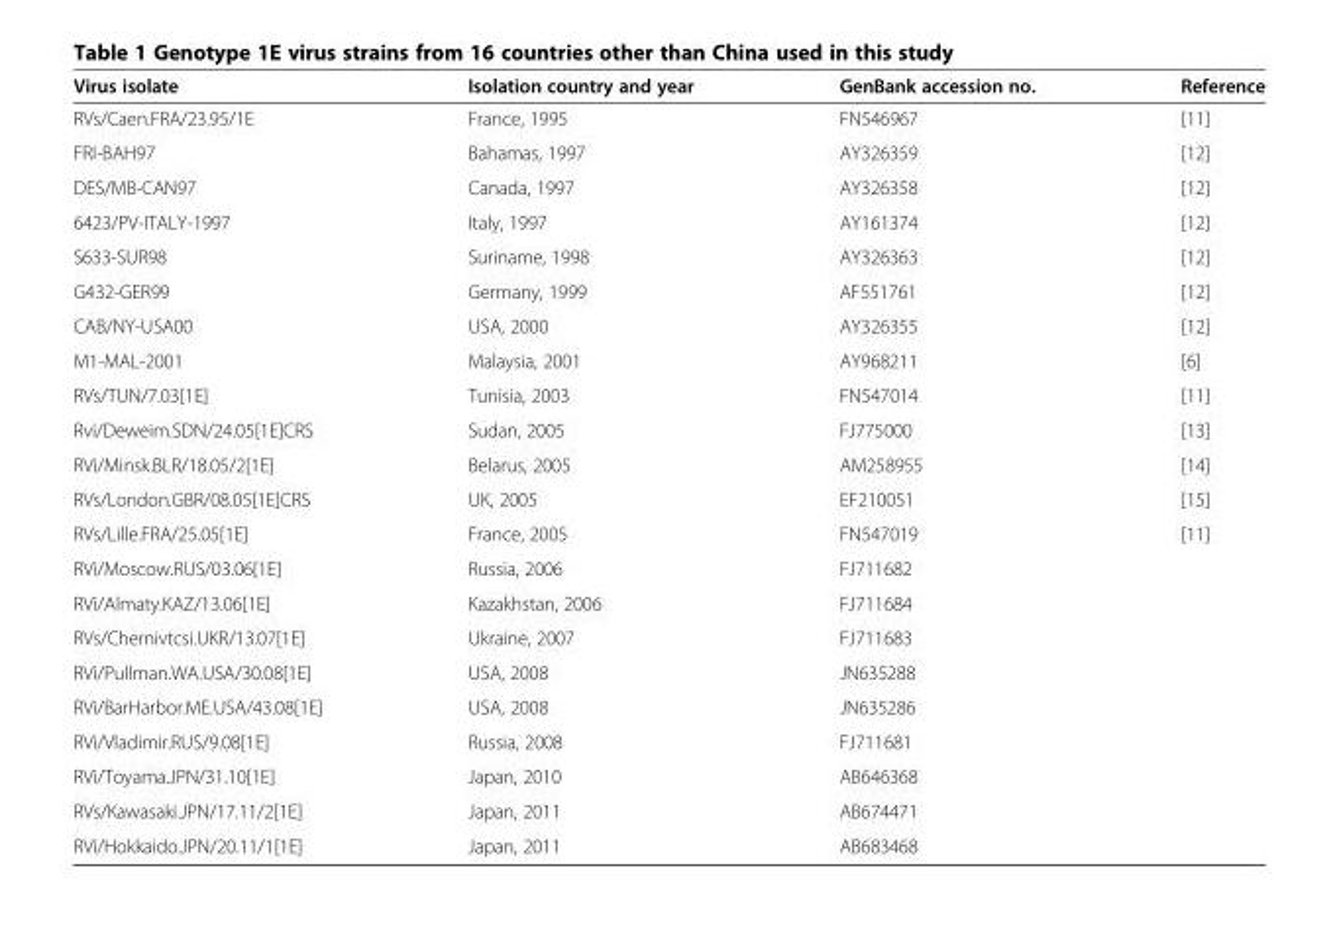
<table><thead><tr><td>Virus isolate</td><td>Isolation country and year</td><td>GenBank accession no.</td><td>Reference</td></tr></thead><tbody><tr><td>RVs/Caen.FRA/23.95/1E</td><td>France, 1995</td><td>FN546967</td><td>[11]</td></tr><tr><td>FRI-BAH97</td><td>Bahamas, 1997</td><td>AY326359</td><td>[12]</td></tr><tr><td>DES/MB-CAN97</td><td>Canada, 1997</td><td>AY326358</td><td>[12]</td></tr><tr><td>6423/PV-ITALY-1997</td><td>Italy, 1997</td><td>AY161374</td><td>[12]</td></tr><tr><td>S633-SUR98</td><td>Suriname, 1998</td><td>AY326363</td><td>[12]</td></tr><tr><td>G432-GER99</td><td>Germany, 1999</td><td>AF551761</td><td>[12]</td></tr><tr><td>CAB/NY-USA00</td><td>USA, 2000</td><td>AY326355</td><td>[12]</td></tr><tr><td>M1-MAL-2001</td><td>Malaysia, 2001</td><td>AY968211</td><td>[6]</td></tr><tr><td>RVs/TUN/7.03[1E]</td><td>Tunisia, 2003</td><td>FN547014</td><td>[11]</td></tr><tr><td>Rvi/Deweim.SDN/24.05[1E]CRS</td><td>Sudan, 2005</td><td>FJ775000</td><td>[13]</td></tr><tr><td>RVi/Minsk.BLR/18.05/2[1E]</td><td>Belarus, 2005</td><td>AM258955</td><td>[14]</td></tr><tr><td>RVs/London.GBR/08.05[1E]CRS</td><td>UK, 2005</td><td>EF210051</td><td>[15]</td></tr><tr><td>RVs/Lille.FRA/25.05[1E]</td><td>France, 2005</td><td>FN547019</td><td>[11]</td></tr><tr><td>RVi/Moscow.RUS/03.06[1E]</td><td>Russia, 2006</td><td>FJ711682</td><td></td></tr><tr><td>RVi/Almaty.KAZ/13.06[1E]</td><td>Kazakhstan, 2006</td><td>FJ711684</td><td></td></tr><tr><td>RVs/Chernivtcsi.UKR/13.07[1E]</td><td>Ukraine, 2007</td><td>FJ711683</td><td></td></tr><tr><td>RVi/Pullman.WA.USA/30.08[1E]</td><td>USA, 2008</td><td>JN635288</td><td></td></tr><tr><td>RVi/BarHarbor.ME.USA/43.08[1E]</td><td>USA, 2008</td><td>JN635286</td><td></td></tr><tr><td>RVi/Vladimir.RUS/9.08[1E]</td><td>Russia, 2008</td><td>FJ711681</td><td></td></tr><tr><td>RVi/Toyama.JPN/31.10[1E]</td><td>Japan, 2010</td><td>AB646368</td><td></td></tr><tr><td>RVs/Kawasaki.JPN/17.11/2[1E]</td><td>Japan, 2011</td><td>AB674471</td><td></td></tr><tr><td>RVi/Hokkaido.JPN/20.11/1[1E]</td><td>Japan, 2011</td><td>AB683468</td><td></td></tr></tbody></table>